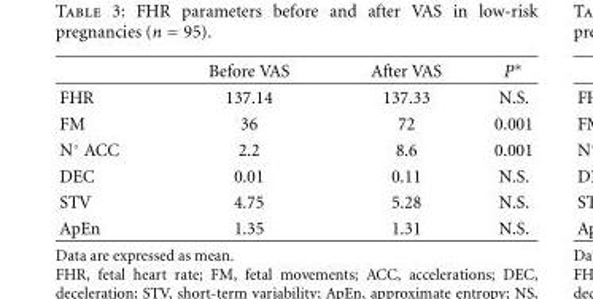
<table><thead><tr><td></td><td>Before VAS</td><td>After VAS</td><td>P∗</td></tr></thead><tbody><tr><td>FHR</td><td>137.14</td><td>137.33</td><td>N.S.</td></tr><tr><td>FM</td><td>36</td><td>72</td><td>0.001</td></tr><tr><td>N◦ ACC</td><td>2.2</td><td>8.6</td><td>0.001</td></tr><tr><td>DEC</td><td>0.01</td><td>0.11</td><td>N.S.</td></tr><tr><td>STV</td><td>4.75</td><td>5.28</td><td>N.S.</td></tr><tr><td>ApEn</td><td>1.35</td><td>1.31</td><td>N.S.</td></tr></tbody></table>